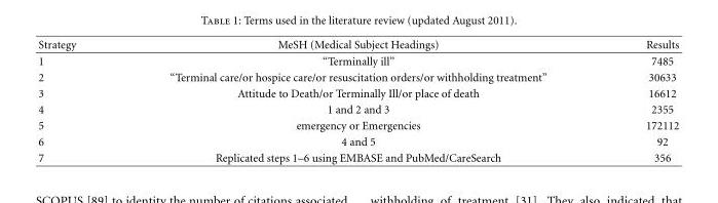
<table><thead><tr><td>Strategy</td><td>MeSH (Medical Subject Headings)</td><td>Results</td></tr></thead><tbody><tr><td>1</td><td>“Terminally ill”</td><td>7485</td></tr><tr><td>2</td><td>“Terminal care/or hospice care/or resuscitation orders/or withholding treatment”</td><td>30633</td></tr><tr><td>3</td><td>Attitude to Death/or Terminally Ill/or place of death</td><td>16612</td></tr><tr><td>4</td><td>1 and 2 and 3</td><td>2355</td></tr><tr><td>5</td><td>emergency or Emergencies</td><td>172112</td></tr><tr><td>6</td><td>4 and 5</td><td>92</td></tr><tr><td>7</td><td>Replicated steps 1–6 using EMBASE and PubMed/CareSearch</td><td>356</td></tr></tbody></table>